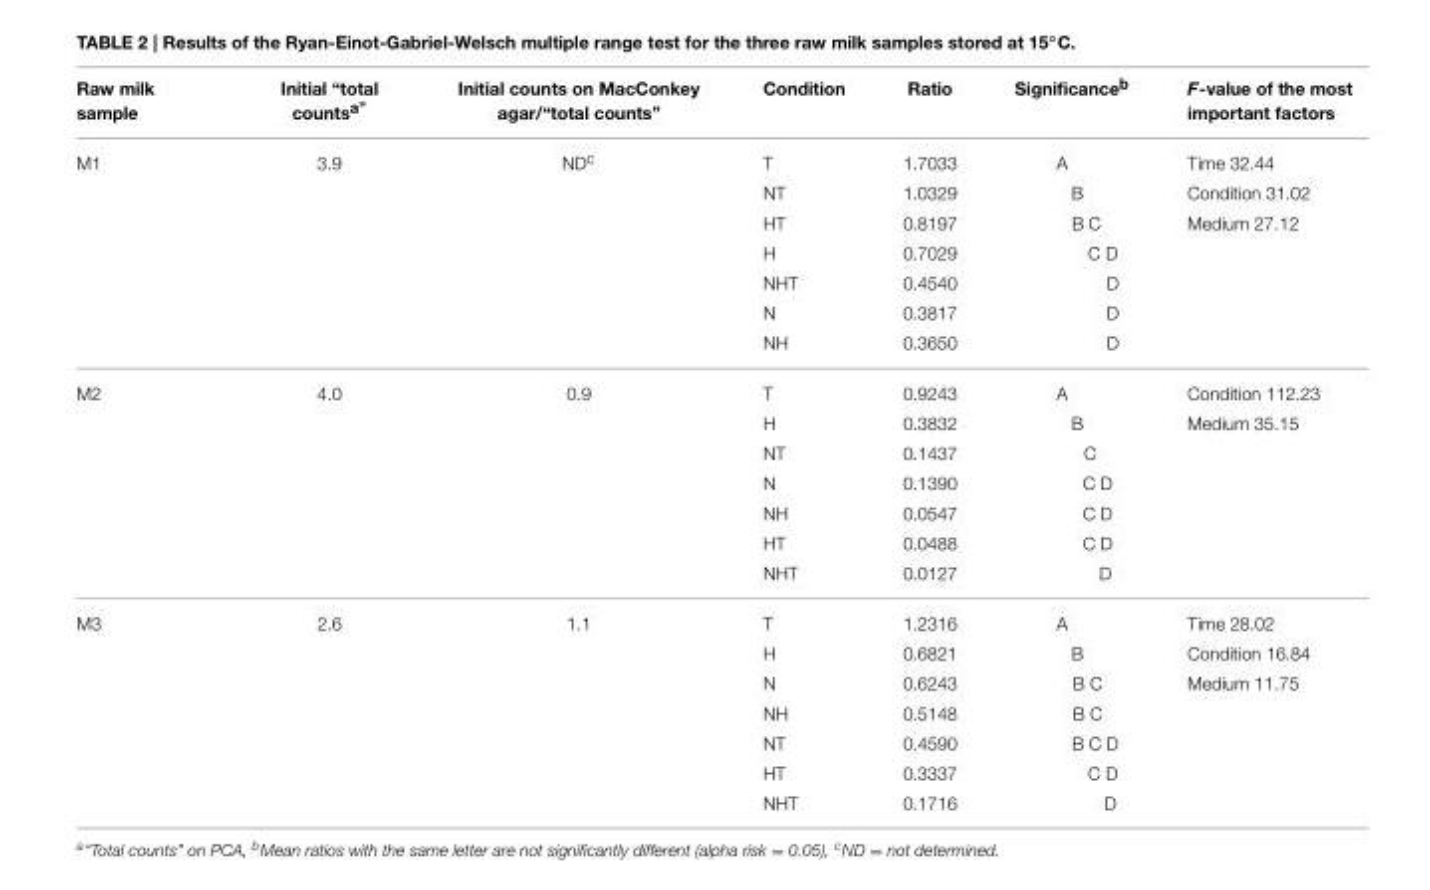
<table><thead><tr><td>Raw milk sample</td><td>Initial “total counts<sup>a</sup>”</td><td>Initial counts on MacConkey agar/“total counts”</td><td>Condition</td><td>Ratio</td><td>Significance<sup>b</sup></td><td>F-value of the most important factors</td></tr></thead><tbody><tr><td rowspan="7">M1</td><td>3.9</td><td>ND<sup>c</sup></td><td>T</td><td>1.7033</td><td>A</td><td>Time 32.44</td></tr><tr><td></td><td></td><td>NT</td><td>1.0329</td><td>B</td><td>Condition 31.02</td></tr><tr><td></td><td></td><td>HT</td><td>0.8197</td><td>B C</td><td>Medium 27.12</td></tr><tr><td></td><td></td><td>H</td><td>0.7029</td><td>C D</td><td></td></tr><tr><td></td><td></td><td>NHT</td><td>0.4540</td><td>D</td><td></td></tr><tr><td></td><td></td><td>N</td><td>0.3817</td><td>D</td><td></td></tr><tr><td></td><td></td><td>NH</td><td>0.3650</td><td>D</td><td></td></tr><tr><td rowspan="7">M2</td><td>4.0</td><td>0.9</td><td>T</td><td>0.9243</td><td>A</td><td>Condition 112.23</td></tr><tr><td></td><td></td><td>H</td><td>0.3832</td><td>B</td><td>Medium 35.15</td></tr><tr><td></td><td></td><td>NT</td><td>0.1437</td><td>C</td><td></td></tr><tr><td></td><td></td><td>N</td><td>0.1390</td><td>C D</td><td></td></tr><tr><td></td><td></td><td>NH</td><td>0.0547</td><td>C D</td><td></td></tr><tr><td></td><td></td><td>HT</td><td>0.0488</td><td>C D</td><td></td></tr><tr><td></td><td></td><td>NHT</td><td>0.0127</td><td>D</td><td></td></tr><tr><td rowspan="7">M3</td><td>2.6</td><td>1.1</td><td>T</td><td>1.2316</td><td>A</td><td>Time 28.02</td></tr><tr><td></td><td></td><td>H</td><td>0.6821</td><td>B</td><td>Condition 16.84</td></tr><tr><td></td><td></td><td>N</td><td>0.6243</td><td>B C</td><td>Medium 11.75</td></tr><tr><td></td><td></td><td>NH</td><td>0.5148</td><td>B C</td><td></td></tr><tr><td></td><td></td><td>NT</td><td>0.4590</td><td>B C D</td><td></td></tr><tr><td></td><td></td><td>HT</td><td>0.3337</td><td>C D</td><td></td></tr><tr><td></td><td></td><td>NHT</td><td>0.1716</td><td>D</td><td></td></tr></tbody></table>